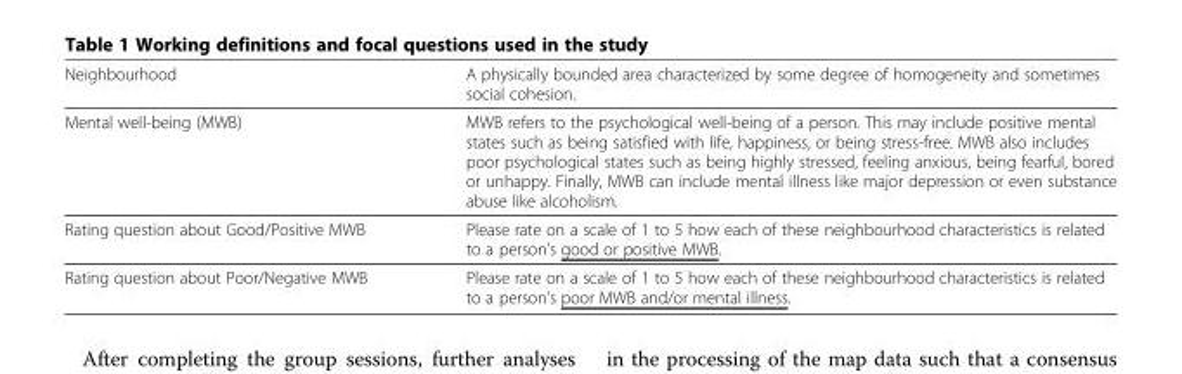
<table><tbody><tr><td>Neighbourhood</td><td>A physically bounded area characterized by some degree of homogeneity and sometimes social cohesion.</td></tr><tr><td>Mental well-being (MWB)</td><td>MWB refers to the psychological well-being of a person. This may include positive mental states such as being satisfied with life, happiness, or being stress-free. MWB also includes poor psychological states such as being highly stressed, feeling anxious, being fearful, bored or unhappy. Finally, MWB can include mental illness like major depression or even substance abuse like alcoholism.</td></tr><tr><td>Rating question about Good/Positive MWB</td><td>Please rate on a scale of 1 to 5 how each of these neighbourhood characteristics is related to a person’s good or positive MWB.</td></tr><tr><td>Rating question about Poor/Negative MWB</td><td>Please rate on a scale of 1 to 5 how each of these neighbourhood characteristics is related to a person’s poor MWB and/or mental illness.</td></tr></tbody></table>